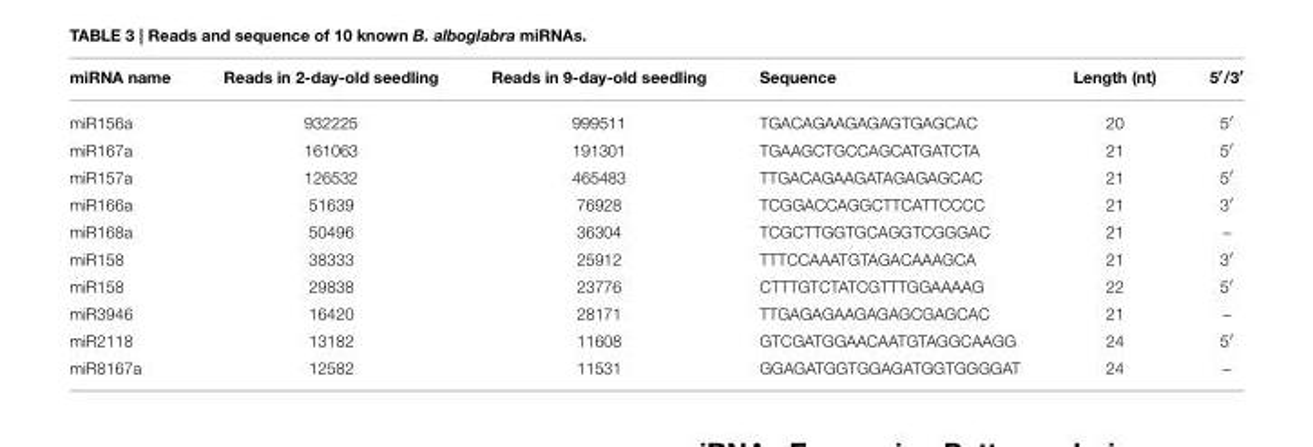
<table><thead><tr><td>miRNA name</td><td>Reads in 2-day-old seedling</td><td>Reads in 9-day-old seedling</td><td>Sequence</td><td>Length (nt)</td><td>5′/3′</td></tr></thead><tbody><tr><td>miR156a</td><td>932225</td><td>999511</td><td>TGACAGAAGAGAGTGAGCAC</td><td>20</td><td>5′</td></tr><tr><td>miR167a</td><td>161063</td><td>191301</td><td>TGAAGCTGCCAGCATGATCTA</td><td>21</td><td>5′</td></tr><tr><td>miR157a</td><td>126532</td><td>465483</td><td>TTGACAGAAGATAGAGAGCAC</td><td>21</td><td>5′</td></tr><tr><td>miR166a</td><td>51639</td><td>76928</td><td>TCGGACCAGGCTTCATTCCCC</td><td>21</td><td>3′</td></tr><tr><td>miR168a</td><td>50496</td><td>36304</td><td>TCGCTTGGTGCAGGTCGGGAC</td><td>21</td><td>–</td></tr><tr><td>miR158</td><td>38333</td><td>25912</td><td>TTTCCAAATGTAGACAAAGCA</td><td>21</td><td>3′</td></tr><tr><td>miR158</td><td>29838</td><td>23776</td><td>CTTTGTCTATCGTTTGGAAAAG</td><td>22</td><td>5′</td></tr><tr><td>miR3946</td><td>16420</td><td>28171</td><td>TTGAGAGAAGAGAGCGAGCAC</td><td>21</td><td>–</td></tr><tr><td>miR2118</td><td>13182</td><td>11608</td><td>GTCGATGGAACAATGTAGGCAAGG</td><td>24</td><td>5′</td></tr><tr><td>miR8167a</td><td>12582</td><td>11531</td><td>GGAGATGGTGGAGATGGTGGGGAT</td><td>24</td><td>–</td></tr></tbody></table>